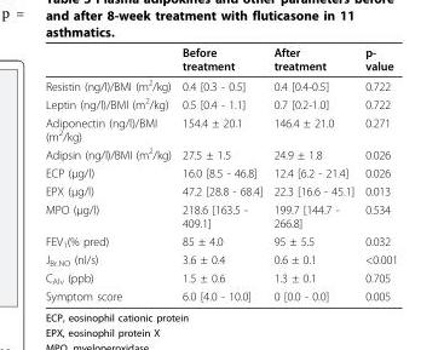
<table><thead><tr><td></td><td>Before treatment</td><td>After treatment</td><td>p- value</td></tr></thead><tbody><tr><td>Resistin (ng/l)/BMI (m<sup>2</sup>/kg)</td><td>0.4 [0.3 - 0.5]</td><td>0.4 [0.4-0.5]</td><td>0.722</td></tr><tr><td>Leptin (ng/l)/BMI (m<sup>2</sup>/kg)</td><td>0.5 [0.4 - 1.1]</td><td>0.7 [0.2-1.0]</td><td>0.722</td></tr><tr><td>Adiponectin (ng/l)/BMI (m<sup>2</sup>/kg)</td><td>154.4 ± 20.1</td><td>146.4 ± 21.0</td><td>0.271</td></tr><tr><td>Adipsin (ng/l)/BMI (m<sup>2</sup>/kg)</td><td>27.5 ± 1.5</td><td>24.9 ± 1.8</td><td>0.026</td></tr><tr><td>ECP (μg/l)</td><td>16.0 [8.5 - 46.8]</td><td>12.4 [6.2 - 21.4]</td><td>0.026</td></tr><tr><td>EPX (μg/l)</td><td>47.2 [28.8 - 68.4]</td><td>22.3 [16.6 - 45.1]</td><td>0.013</td></tr><tr><td>MPO (μg/l)</td><td>218.6 [163.5 - 409.1]</td><td>199.7 [144.7 - 266.8]</td><td>0.534</td></tr><tr><td>FEV<sub>1</sub>(% pred)</td><td>85 ± 4.0</td><td>95 ± 5.5</td><td>0.032</td></tr><tr><td>J<sub>Br,NO</sub> (nl/s)</td><td>3.6 ± 0.4</td><td>0.6 ± 0.1</td><td>&lt;0.001</td></tr><tr><td>C<sub>Alv</sub> (ppb)</td><td>1.5 ± 0.6</td><td>1.3 ± 0.1</td><td>0.705</td></tr><tr><td>Symptom score</td><td>6.0 [4.0 - 10.0]</td><td>0 [0.0 - 0.0]</td><td>0.005</td></tr></tbody></table>